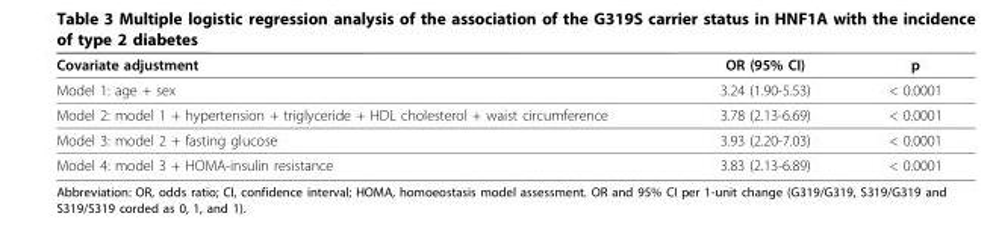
<table><thead><tr><td>Covariate adjustment</td><td>OR (95% CI)</td><td>p</td></tr></thead><tbody><tr><td>Model 1: age + sex</td><td>3.24 (1.90-5.53)</td><td>&lt; 0.0001</td></tr><tr><td>Model 2: model 1 + hypertension + triglyceride + HDL cholesterol + waist circumference</td><td>3.78 (2.13-6.69)</td><td>&lt; 0.0001</td></tr><tr><td>Model 3: model 2 + fasting glucose</td><td>3.93 (2.20-7.03)</td><td>&lt; 0.0001</td></tr><tr><td>Model 4: model 3 + HOMA-insulin resistance</td><td>3.83 (2.13-6.89)</td><td>&lt; 0.0001</td></tr></tbody></table>